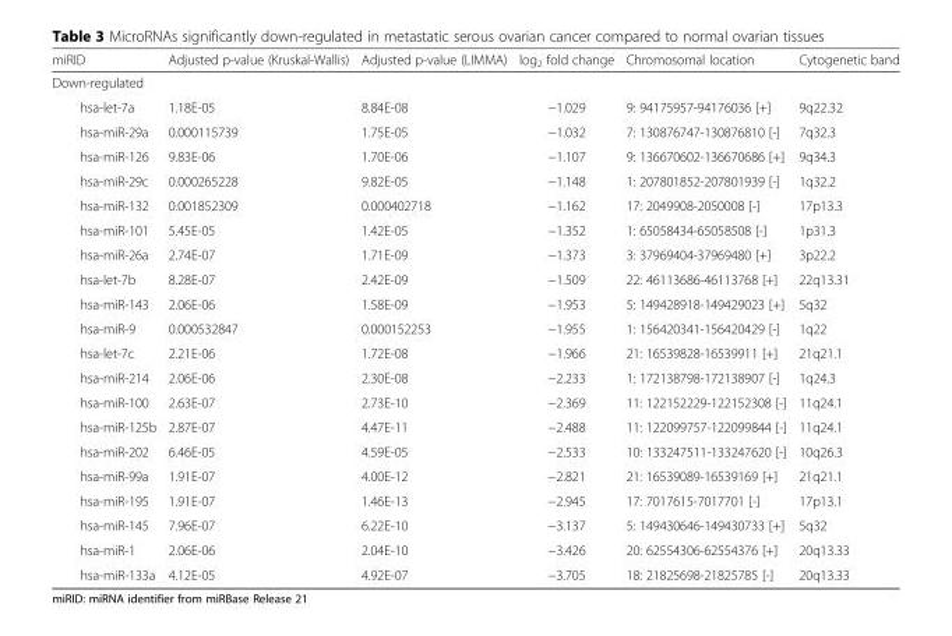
<table><thead><tr><td>miRID</td><td>Adjusted p-value (Kruskal-Wallis)</td><td>Adjusted p-value (LIMMA)</td><td>log<sub>2</sub> fold change</td><td>Chromosomal location</td><td>Cytogenetic band</td></tr></thead><tbody><tr><td colspan="6">Down-regulated</td></tr><tr><td>hsa-let-7a</td><td>1.18E-05</td><td>8.84E-08</td><td>−1.029</td><td>9: 94175957-94176036 [+]</td><td>9q22.32</td></tr><tr><td>hsa-miR-29a</td><td>0.000115739</td><td>1.75E-05</td><td>−1.032</td><td>7: 130876747-130876810 [-]</td><td>7q32.3</td></tr><tr><td>hsa-miR-126</td><td>9.83E-06</td><td>1.70E-06</td><td>−1.107</td><td>9: 136670602-136670686 [+]</td><td>9q34.3</td></tr><tr><td>hsa-miR-29c</td><td>0.000265228</td><td>9.82E-05</td><td>−1.148</td><td>1: 207801852-207801939 [-]</td><td>1q32.2</td></tr><tr><td>hsa-miR-132</td><td>0.001852309</td><td>0.000402718</td><td>−1.162</td><td>17: 2049908-2050008 [-]</td><td>17p13.3</td></tr><tr><td>hsa-miR-101</td><td>5.45E-05</td><td>1.42E-05</td><td>−1.352</td><td>1: 65058434-65058508 [-]</td><td>1p31.3</td></tr><tr><td>hsa-miR-26a</td><td>2.74E-07</td><td>1.71E-09</td><td>−1.373</td><td>3: 37969404-37969480 [+]</td><td>3p22.2</td></tr><tr><td>hsa-let-7b</td><td>8.28E-07</td><td>2.42E-09</td><td>−1.509</td><td>22: 46113686-46113768 [+]</td><td>22q13.31</td></tr><tr><td>hsa-miR-143</td><td>2.06E-06</td><td>1.58E-09</td><td>−1.953</td><td>5: 149428918-149429023 [+]</td><td>5q32</td></tr><tr><td>hsa-miR-9</td><td>0.000532847</td><td>0.000152253</td><td>−1.955</td><td>1: 156420341-156420429 [-]</td><td>1q22</td></tr><tr><td>hsa-let-7c</td><td>2.21E-06</td><td>1.72E-08</td><td>−1.966</td><td>21: 16539828-16539911 [+]</td><td>21q21.1</td></tr><tr><td>hsa-miR-214</td><td>2.06E-06</td><td>2.30E-08</td><td>−2.233</td><td>1: 172138798-172138907 [-]</td><td>1q24.3</td></tr><tr><td>hsa-miR-100</td><td>2.63E-07</td><td>2.73E-10</td><td>−2.369</td><td>11: 122152229-122152308 [-]</td><td>11q24.1</td></tr><tr><td>hsa-miR-125b</td><td>2.87E-07</td><td>4.47E-11</td><td>−2.488</td><td>11: 122099757-122099844 [-]</td><td>11q24.1</td></tr><tr><td>hsa-miR-202</td><td>6.46E-05</td><td>4.59E-05</td><td>−2.533</td><td>10: 133247511-133247620 [-]</td><td>10q26.3</td></tr><tr><td>hsa-miR-99a</td><td>1.91E-07</td><td>4.00E-12</td><td>−2.821</td><td>21: 16539089-16539169 [+]</td><td>21q21.1</td></tr><tr><td>hsa-miR-195</td><td>1.91E-07</td><td>1.46E-13</td><td>−2.945</td><td>17: 7017615-7017701 [-]</td><td>17p13.1</td></tr><tr><td>hsa-miR-145</td><td>7.96E-07</td><td>6.22E-10</td><td>−3.137</td><td>5: 149430646-149430733 [+]</td><td>5q32</td></tr><tr><td>hsa-miR-1</td><td>2.06E-06</td><td>2.04E-10</td><td>−3.426</td><td>20: 62554306-62554376 [+]</td><td>20q13.33</td></tr><tr><td>hsa-miR-133a</td><td>4.12E-05</td><td>4.92E-07</td><td>−3.705</td><td>18: 21825698-21825785 [-]</td><td>20q13.33</td></tr></tbody></table>